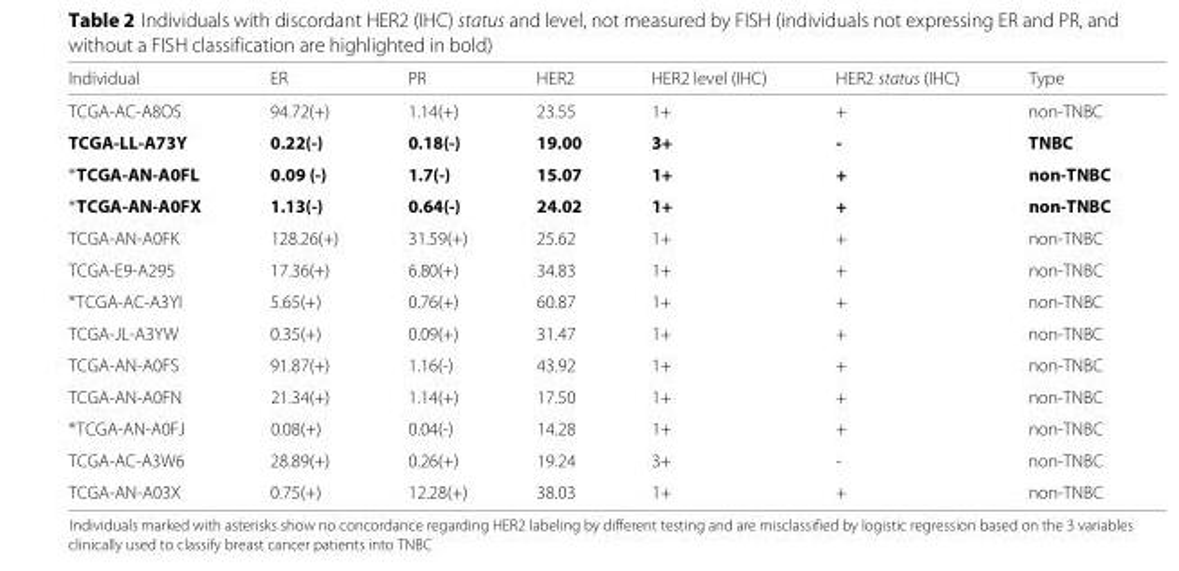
<table><thead><tr><td>Individual</td><td>ER</td><td>PR</td><td>HER2</td><td>HER2 level (IHC)</td><td>HER2 status (IHC)</td><td>Type</td></tr></thead><tbody><tr><td>TCGA-AC-A8OS</td><td>94.72(+)</td><td>1.14(+)</td><td>23.55</td><td>1+</td><td>+</td><td>non-TNBC</td></tr><tr><td>TCGA-LL-A73Y</td><td>0.22(-)</td><td>0.18(-)</td><td>19.00</td><td>3+</td><td>-</td><td>TNBC</td></tr><tr><td>∗TCGA-AN-A0FL</td><td>0.09 (-)</td><td>1.7(-)</td><td>15.07</td><td>1+</td><td>+</td><td>non-TNBC</td></tr><tr><td>∗TCGA-AN-A0FX</td><td>1.13(-)</td><td>0.64(-)</td><td>24.02</td><td>1+</td><td>+</td><td>non-TNBC</td></tr><tr><td>TCGA-AN-A0FK</td><td>128.26(+)</td><td>31.59(+)</td><td>25.62</td><td>1+</td><td>+</td><td>non-TNBC</td></tr><tr><td>TCGA-E9-A295</td><td>17.36(+)</td><td>6.80(+)</td><td>34.83</td><td>1+</td><td>+</td><td>non-TNBC</td></tr><tr><td>∗TCGA-AC-A3YI</td><td>5.65(+)</td><td>0.76(+)</td><td>60.87</td><td>1+</td><td>+</td><td>non-TNBC</td></tr><tr><td>TCGA-JL-A3YW</td><td>0.35(+)</td><td>0.09(+)</td><td>31.47</td><td>1+</td><td>+</td><td>non-TNBC</td></tr><tr><td>TCGA-AN-A0FS</td><td>91.87(+)</td><td>1.16(-)</td><td>43.92</td><td>1+</td><td>+</td><td>non-TNBC</td></tr><tr><td>TCGA-AN-A0FN</td><td>21.34(+)</td><td>1.14(+)</td><td>17.50</td><td>1+</td><td>+</td><td>non-TNBC</td></tr><tr><td>∗TCGA-AN-A0FJ</td><td>0.08(+)</td><td>0.04(-)</td><td>14.28</td><td>1+</td><td>+</td><td>non-TNBC</td></tr><tr><td>TCGA-AC-A3W6</td><td>28.89(+)</td><td>0.26(+)</td><td>19.24</td><td>3+</td><td>-</td><td>non-TNBC</td></tr><tr><td>TCGA-AN-A03X</td><td>0.75(+)</td><td>12.28(+)</td><td>38.03</td><td>1+</td><td>+</td><td>non-TNBC</td></tr></tbody></table>